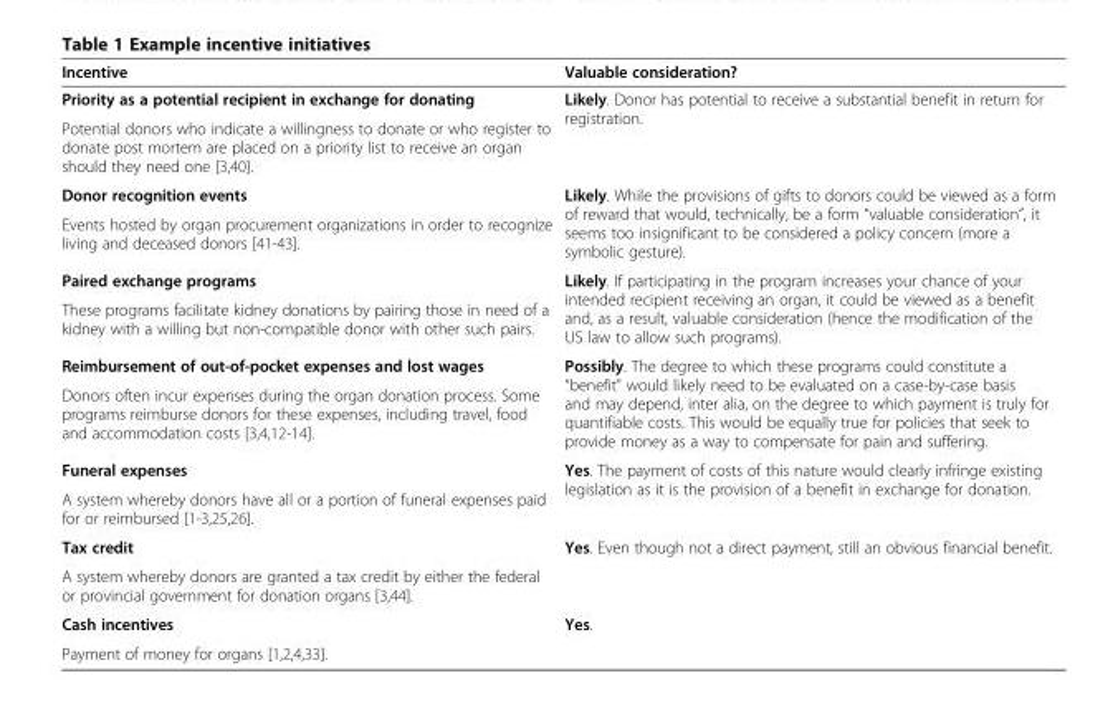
<table><thead><tr><td>Incentive</td><td>Valuable consideration?</td></tr></thead><tbody><tr><td>Priority as a potential recipient in exchange for donating</td><td rowspan="2">Likely. Donor has potential to receive a substantial benefit in return for registration.</td></tr><tr><td>Potential donors who indicate a willingness to donate or who register to donate post mortem are placed on a priority list to receive an organ should they need one [3,40].</td></tr><tr><td>Donor recognition events</td><td rowspan="2">Likely. While the provisions of gifts to donors could be viewed as a form of reward that would, technically, be a form “valuable consideration”, it seems too insignificant to be considered a policy concern (more a symbolic gesture).</td></tr><tr><td>Events hosted by organ procurement organizations in order to recognize living and deceased donors [41-43].</td></tr><tr><td>Paired exchange programs</td><td rowspan="2">Likely. If participating in the program increases your chance of your intended recipient receiving an organ, it could be viewed as a benefit and, as a result, valuable consideration (hence the modification of the US law to allow such programs).</td></tr><tr><td>These programs facilitate kidney donations by pairing those in need of a kidney with a willing but non-compatible donor with other such pairs.</td></tr><tr><td>Reimbursement of out-of-pocket expenses and lost wages</td><td rowspan="2">Possibly. The degree to which these programs could constitute a “benefit” would likely need to be evaluated on a case-by-case basis and may depend, inter alia, on the degree to which payment is truly for quantifiable costs. This would be equally true for policies that seek to provide money as a way to compensate for pain and suffering.</td></tr><tr><td>Donors often incur expenses during the organ donation process. Some programs reimburse donors for these expenses, including travel, food and accommodation costs [3,4,12-14].</td></tr><tr><td>Funeral expenses</td><td rowspan="2">Yes. The payment of costs of this nature would clearly infringe existing legislation as it is the provision of a benefit in exchange for donation.</td></tr><tr><td>A system whereby donors have all or a portion of funeral expenses paid for or reimbursed [1-3,25,26].</td></tr><tr><td>Tax credit</td><td rowspan="2">Yes. Even though not a direct payment, still an obvious financial benefit.</td></tr><tr><td>A system whereby donors are granted a tax credit by either the federal or provincial government for donation organs [3,44].</td></tr><tr><td>Cash incentives</td><td>Yes.</td></tr><tr><td>Payment of money for organs [1,2,4,33].</td><td></td></tr></tbody></table>